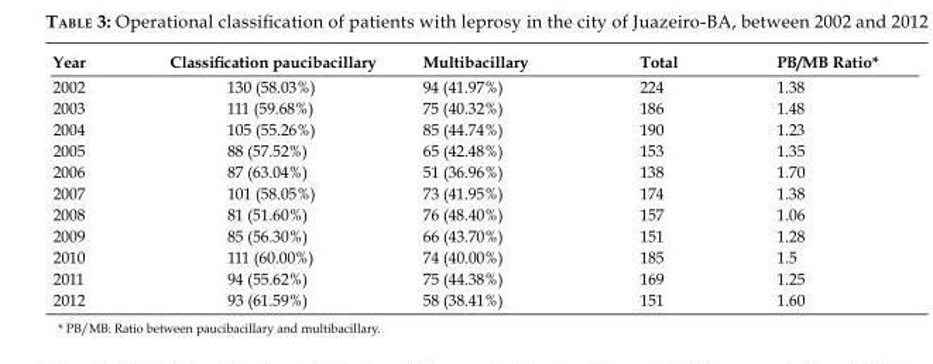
<table><thead><tr><td>Year</td><td>Classification paucibacillary</td><td>Multibacillary</td><td>Total</td><td>PB/MB Ratio*</td></tr></thead><tbody><tr><td>2002</td><td>130 (58.03%)</td><td>94 (41.97%)</td><td>224</td><td>1.38</td></tr><tr><td>2003</td><td>111 (59.68%)</td><td>75 (40.32%)</td><td>186</td><td>1.48</td></tr><tr><td>2004</td><td>105 (55.26%)</td><td>85 (44.74%)</td><td>190</td><td>1.23</td></tr><tr><td>2005</td><td>88 (57.52%)</td><td>65 (42.48%)</td><td>153</td><td>1.35</td></tr><tr><td>2006</td><td>87 (63.04%)</td><td>51 (36.96%)</td><td>138</td><td>1.70</td></tr><tr><td>2007</td><td>101 (58.05%)</td><td>73 (41.95%)</td><td>174</td><td>1.38</td></tr><tr><td>2008</td><td>81 (51.60%)</td><td>76 (48.40%)</td><td>157</td><td>1.06</td></tr><tr><td>2009</td><td>85 (56.30%)</td><td>66 (43.70%)</td><td>151</td><td>1.28</td></tr><tr><td>2010</td><td>111 (60.00%)</td><td>74 (40.00%)</td><td>185</td><td>1.5</td></tr><tr><td>2011</td><td>94 (55.62%)</td><td>75 (44.38%)</td><td>169</td><td>1.25</td></tr><tr><td>2012</td><td>93 (61.59%)</td><td>58 (38.41%)</td><td>151</td><td>1.60</td></tr></tbody></table>